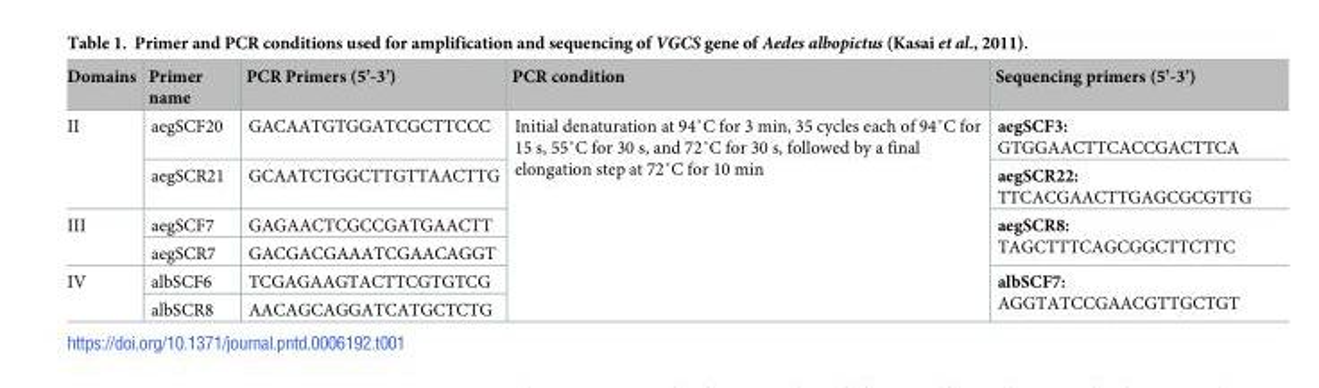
<table><thead><tr><td>Domains</td><td>Primer name</td><td>PCR Primers (5’-3’)</td><td>PCR condition</td><td>Sequencing primers (5’-3’)</td></tr></thead><tbody><tr><td rowspan="2">II</td><td>aegSCF20</td><td>GACAATGTGGATCGCTTCCC</td><td rowspan="6">Initial denaturation at 94˚C for 3 min, 35 cycles each of 94˚C for 15 s, 55˚C for 30 s, and 72˚C for 30 s, followed by a final elongation step at 72˚C for 10 min</td><td>aegSCF3: GTGGAACTTCACCGACTTCA</td></tr><tr><td>aegSCR21</td><td>GCAATCTGGCTTGTTAACTTG</td><td>aegSCR22: TTCACGAACTTGAGCGCGTTG</td></tr><tr><td rowspan="2">III</td><td>aegSCF7</td><td>GAGAACTCGCCGATGAACTT</td><td rowspan="2">aegSCR8: TAGCTTTCAGCGGCTTCTTC</td></tr><tr><td>aegSCR7</td><td>GACGACGAAATCGAACAGGT</td></tr><tr><td rowspan="2">IV</td><td>albSCF6</td><td>TCGAGAAGTACTTCGTGTCG</td><td rowspan="2">albSCF7: AGGTATCCGAACGTTGCTGT</td></tr><tr><td>albSCR8</td><td>AACAGCAGGATCATGCTCTG</td></tr></tbody></table>